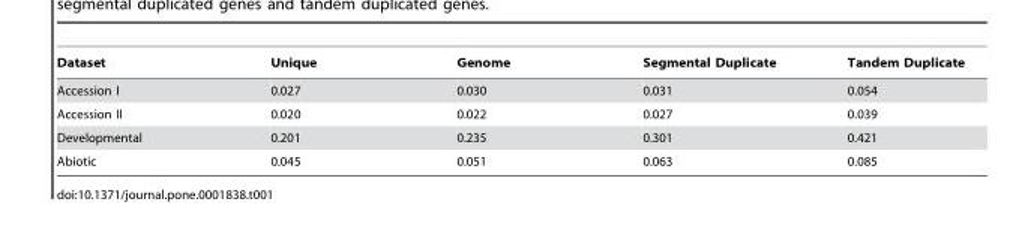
<table><thead><tr><td>Dataset</td><td>Unique</td><td>Genome</td><td>Segmental Duplicate</td><td>Tandem Duplicate</td></tr></thead><tbody><tr><td>Accession I</td><td>0.027</td><td>0.030</td><td>0.031</td><td>0.054</td></tr><tr><td>Accession II</td><td>0.020</td><td>0.022</td><td>0.027</td><td>0.039</td></tr><tr><td>Developmental</td><td>0.201</td><td>0.235</td><td>0.301</td><td>0.421</td></tr><tr><td>Abiotic</td><td>0.045</td><td>0.051</td><td>0.063</td><td>0.085</td></tr></tbody></table>